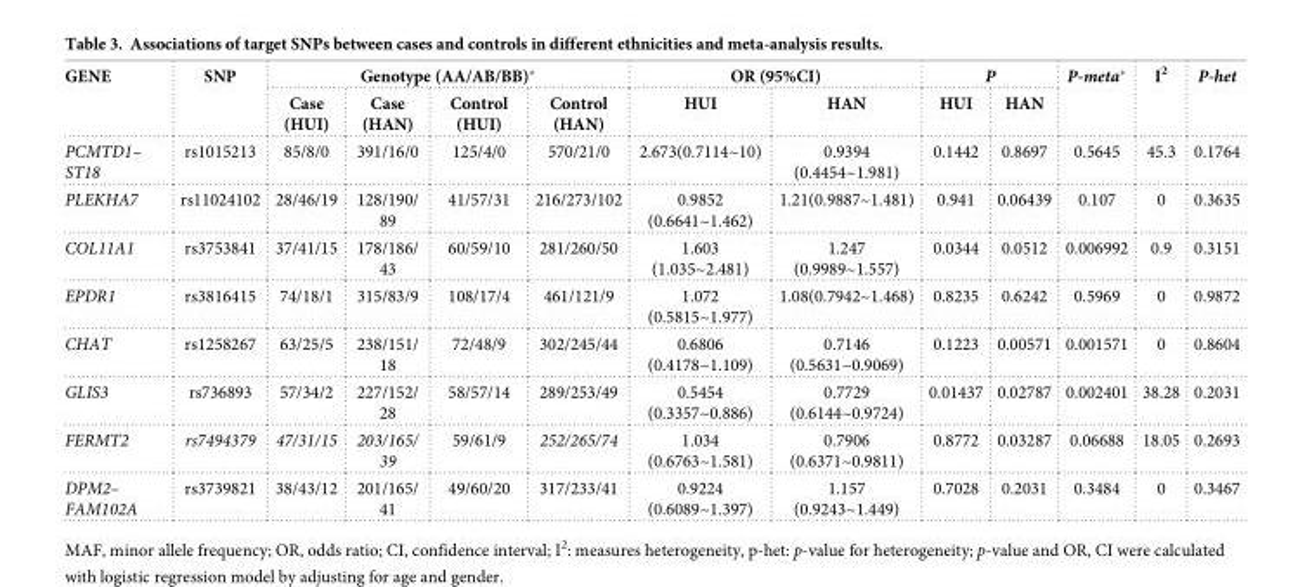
<table><thead><tr><td rowspan="2">GENE</td><td rowspan="2">SNP</td><td colspan="4">Genotype (AA/AB/BB)*</td><td colspan="2">OR (95%CI)</td><td colspan="2">P</td><td rowspan="2">P-meta*</td><td rowspan="2">I<sup>2</sup></td><td rowspan="2">P-het</td></tr><tr><td>Case (HUI)</td><td>Case (HAN)</td><td>Control (HUI)</td><td>Control (HAN)</td><td>HUI</td><td>HAN</td><td>HUI</td><td>HAN</td></tr></thead><tbody><tr><td>PCMTD1– ST18</td><td>rs1015213</td><td>85/8/0</td><td>391/16/0</td><td>125/4/0</td><td>570/21/0</td><td>2.673(0.7114~10)</td><td>0.9394 (0.4454~1.981)</td><td>0.1442</td><td>0.8697</td><td>0.5645</td><td>45.3</td><td>0.1764</td></tr><tr><td>PLEKHA7</td><td>rs11024102</td><td>28/46/19</td><td>128/190/ 89</td><td>41/57/31</td><td>216/273/102</td><td>0.9852 (0.6641~1.462)</td><td>1.21(0.9887~1.481)</td><td>0.941</td><td>0.06439</td><td>0.107</td><td>0</td><td>0.3635</td></tr><tr><td>COL11A1</td><td>rs3753841</td><td>37/41/15</td><td>178/186/ 43</td><td>60/59/10</td><td>281/260/50</td><td>1.603 (1.035~2.481)</td><td>1.247 (0.9989~1.557)</td><td>0.0344</td><td>0.0512</td><td>0.006992</td><td>0.9</td><td>0.3151</td></tr><tr><td>EPDR1</td><td>rs3816415</td><td>74/18/1</td><td>315/83/9</td><td>108/17/4</td><td>461/121/9</td><td>1.072 (0.5815~1.977)</td><td>1.08(0.7942~1.468)</td><td>0.8235</td><td>0.6242</td><td>0.5969</td><td>0</td><td>0.9872</td></tr><tr><td>CHAT</td><td>rs1258267</td><td>63/25/5</td><td>238/151/ 18</td><td>72/48/9</td><td>302/245/44</td><td>0.6806 (0.4178~1.109)</td><td>0.7146 (0.5631~0.9069)</td><td>0.1223</td><td>0.00571</td><td>0.001571</td><td>0</td><td>0.8604</td></tr><tr><td>GLIS3</td><td>rs736893</td><td>57/34/2</td><td>227/152/ 28</td><td>58/57/14</td><td>289/253/49</td><td>0.5454 (0.3357~0.886)</td><td>0.7729 (0.6144~0.9724)</td><td>0.01437</td><td>0.02787</td><td>0.002401</td><td>38.28</td><td>0.2031</td></tr><tr><td>FERMT2</td><td>rs7494379</td><td>47/31/15</td><td>203/165/ 39</td><td>59/61/9</td><td>252/265/74</td><td>1.034 (0.6763~1.581)</td><td>0.7906 (0.6371~0.9811)</td><td>0.8772</td><td>0.03287</td><td>0.06688</td><td>18.05</td><td>0.2693</td></tr><tr><td>DPM2– FAM102A</td><td>rs3739821</td><td>38/43/12</td><td>201/165/ 41</td><td>49/60/20</td><td>317/233/41</td><td>0.9224 (0.6089~1.397)</td><td>1.157 (0.9243~1.449)</td><td>0.7028</td><td>0.2031</td><td>0.3484</td><td>0</td><td>0.3467</td></tr></tbody></table>